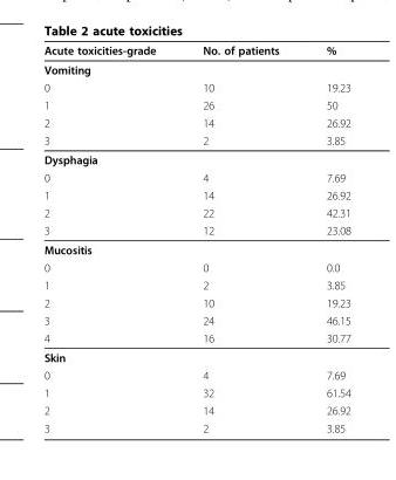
<table><thead><tr><td>Acute toxicities-grade</td><td>No. of patients</td><td>%</td></tr></thead><tbody><tr><td colspan="3">Vomiting</td></tr><tr><td>0</td><td>10</td><td>19.23</td></tr><tr><td>1</td><td>26</td><td>50</td></tr><tr><td>2</td><td>14</td><td>26.92</td></tr><tr><td>3</td><td>2</td><td>3.85</td></tr><tr><td colspan="3">Dysphagia</td></tr><tr><td>0</td><td>4</td><td>7.69</td></tr><tr><td>1</td><td>14</td><td>26.92</td></tr><tr><td>2</td><td>22</td><td>42.31</td></tr><tr><td>3</td><td>12</td><td>23.08</td></tr><tr><td colspan="3">Mucositis</td></tr><tr><td>0</td><td>0</td><td>0.0</td></tr><tr><td>1</td><td>2</td><td>3.85</td></tr><tr><td>2</td><td>10</td><td>19.23</td></tr><tr><td>3</td><td>24</td><td>46.15</td></tr><tr><td>4</td><td>16</td><td>30.77</td></tr><tr><td colspan="3">Skin</td></tr><tr><td>0</td><td>4</td><td>7.69</td></tr><tr><td>1</td><td>32</td><td>61.54</td></tr><tr><td>2</td><td>14</td><td>26.92</td></tr><tr><td>3</td><td>2</td><td>3.85</td></tr></tbody></table>